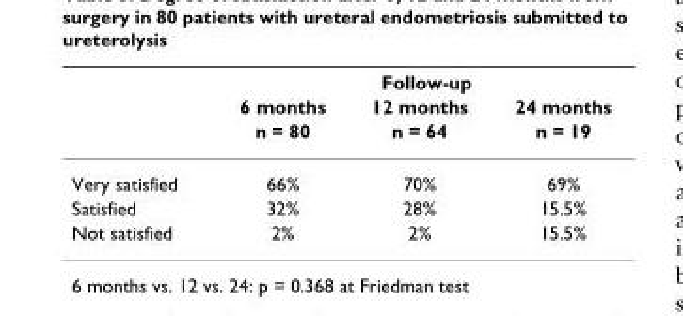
<table><thead><tr><td rowspan="3"></td><td colspan="3">Follow-up</td></tr><tr><td rowspan="2">6 months n = 80</td><td rowspan="2">12 months n = 64</td><td rowspan="2">24 months n = 19</td></tr><tr></tr></thead><tbody><tr><td>Very satisfied</td><td>66%</td><td>70%</td><td>69%</td></tr><tr><td>Satisfied</td><td>32%</td><td>28%</td><td>15.5%</td></tr><tr><td>Not satisfied</td><td>2%</td><td>2%</td><td>15.5%</td></tr></tbody></table>